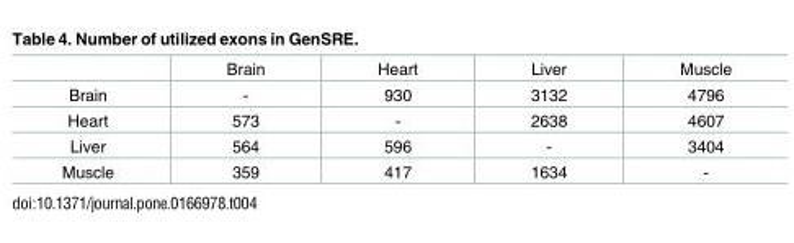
<table><thead><tr><td></td><td>Brain</td><td>Heart</td><td>Liver</td><td>Muscle</td></tr></thead><tbody><tr><td>Brain</td><td>-</td><td>930</td><td>3132</td><td>4796</td></tr><tr><td>Heart</td><td>573</td><td>-</td><td>2638</td><td>4607</td></tr><tr><td>Liver</td><td>564</td><td>596</td><td>-</td><td>3404</td></tr><tr><td>Muscle</td><td>359</td><td>417</td><td>1634</td><td>-</td></tr></tbody></table>